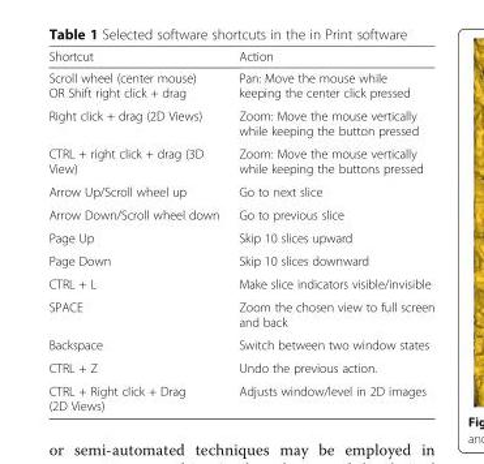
<table><thead><tr><td>Shortcut</td><td>Action</td></tr></thead><tbody><tr><td>Scroll wheel (center mouse) OR Shift right click + drag</td><td>Pan: Move the mouse while keeping the center click pressed</td></tr><tr><td>Right click + drag (2D Views)</td><td>Zoom: Move the mouse vertically while keeping the button pressed</td></tr><tr><td>CTRL + right click + drag (3D View)</td><td>Zoom: Move the mouse vertically while keeping the buttons pressed</td></tr><tr><td>Arrow Up/Scroll wheel up</td><td>Go to next slice</td></tr><tr><td>Arrow Down/Scroll wheel down</td><td>Go to previous slice</td></tr><tr><td>Page Up</td><td>Skip 10 slices upward</td></tr><tr><td>Page Down</td><td>Skip 10 slices downward</td></tr><tr><td>CTRL + L</td><td>Make slice indicators visible/invisible</td></tr><tr><td>SPACE</td><td>Zoom the chosen view to full screen and back</td></tr><tr><td>Backspace</td><td>Switch between two window states</td></tr><tr><td>CTRL + Z</td><td>Undo the previous action.</td></tr><tr><td>CTRL + Right click + Drag (2D Views)</td><td>Adjusts window/level in 2D images</td></tr></tbody></table>